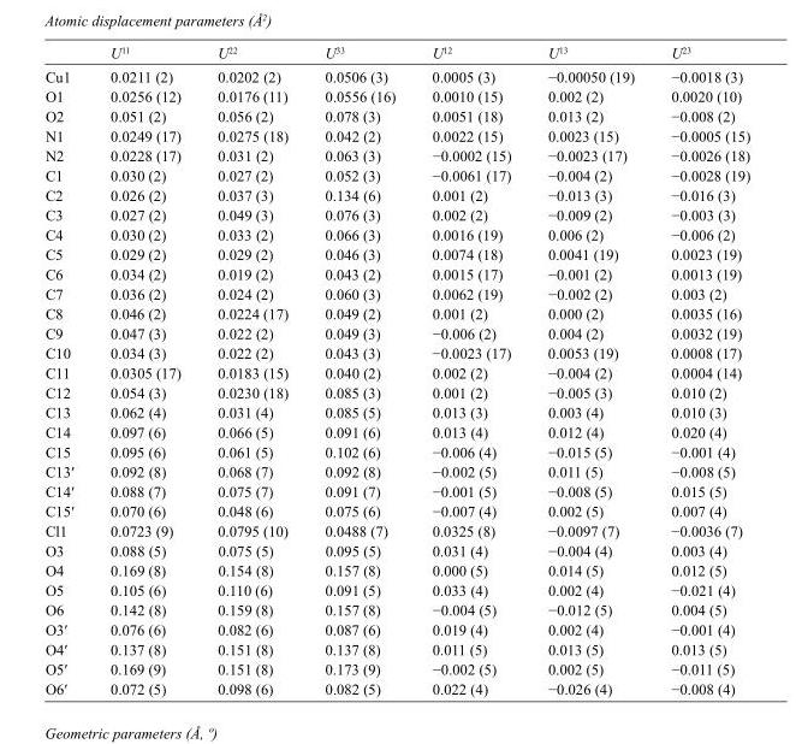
<table><thead><tr><td></td><td>U<sup>11</sup></td><td>U<sup>22</sup></td><td>U<sup>33</sup></td><td>U<sup>12</sup></td><td>U<sup>13</sup></td><td>U<sup>23</sup></td></tr></thead><tbody><tr><td>Cu1</td><td>0.0211 (2)</td><td>0.0202 (2)</td><td>0.0506 (3)</td><td>0.0005 (3)</td><td>−0.00050 (19)</td><td>−0.0018 (3)</td></tr><tr><td>O1</td><td>0.0256 (12)</td><td>0.0176 (11)</td><td>0.0556 (16)</td><td>0.0010 (15)</td><td>0.002 (2)</td><td>0.0020 (10)</td></tr><tr><td>O2</td><td>0.051 (2)</td><td>0.056 (2)</td><td>0.078 (3)</td><td>0.0051 (18)</td><td>0.013 (2)</td><td>−0.008 (2)</td></tr><tr><td>N1</td><td>0.0249 (17)</td><td>0.0275 (18)</td><td>0.042 (2)</td><td>0.0022 (15)</td><td>0.0023 (15)</td><td>−0.0005 (15)</td></tr><tr><td>N2</td><td>0.0228 (17)</td><td>0.031 (2)</td><td>0.063 (3)</td><td>−0.0002 (15)</td><td>−0.0023 (17)</td><td>−0.0026 (18)</td></tr><tr><td>C1</td><td>0.030 (2)</td><td>0.027 (2)</td><td>0.052 (3)</td><td>−0.0061 (17)</td><td>−0.004 (2)</td><td>−0.0028 (19)</td></tr><tr><td>C2</td><td>0.026 (2)</td><td>0.037 (3)</td><td>0.134 (6)</td><td>0.001 (2)</td><td>−0.013 (3)</td><td>−0.016 (3)</td></tr><tr><td>C3</td><td>0.027 (2)</td><td>0.049 (3)</td><td>0.076 (3)</td><td>0.002 (2)</td><td>−0.009 (2)</td><td>−0.003 (3)</td></tr><tr><td>C4</td><td>0.030 (2)</td><td>0.033 (2)</td><td>0.066 (3)</td><td>0.0016 (19)</td><td>0.006 (2)</td><td>−0.006 (2)</td></tr><tr><td>C5</td><td>0.029 (2)</td><td>0.029 (2)</td><td>0.046 (3)</td><td>0.0074 (18)</td><td>0.0041 (19)</td><td>0.0023 (19)</td></tr><tr><td>C6</td><td>0.034 (2)</td><td>0.019 (2)</td><td>0.043 (2)</td><td>0.0015 (17)</td><td>−0.001 (2)</td><td>0.0013 (19)</td></tr><tr><td>C7</td><td>0.036 (2)</td><td>0.024 (2)</td><td>0.060 (3)</td><td>0.0062 (19)</td><td>−0.002 (2)</td><td>0.003 (2)</td></tr><tr><td>C8</td><td>0.046 (2)</td><td>0.0224 (17)</td><td>0.049 (2)</td><td>0.001 (2)</td><td>0.000 (2)</td><td>0.0035 (16)</td></tr><tr><td>C9</td><td>0.047 (3)</td><td>0.022 (2)</td><td>0.049 (3)</td><td>−0.006 (2)</td><td>0.004 (2)</td><td>0.0032 (19)</td></tr><tr><td>C10</td><td>0.034 (3)</td><td>0.022 (2)</td><td>0.043 (3)</td><td>−0.0023 (17)</td><td>0.0053 (19)</td><td>0.0008 (17)</td></tr><tr><td>C11</td><td>0.0305 (17)</td><td>0.0183 (15)</td><td>0.040 (2)</td><td>0.002 (2)</td><td>−0.004 (2)</td><td>0.0004 (14)</td></tr><tr><td>C12</td><td>0.054 (3)</td><td>0.0230 (18)</td><td>0.085 (3)</td><td>0.001 (2)</td><td>−0.005 (3)</td><td>0.010 (2)</td></tr><tr><td>C13</td><td>0.062 (4)</td><td>0.031 (4)</td><td>0.085 (5)</td><td>0.013 (3)</td><td>0.003 (4)</td><td>0.010 (3)</td></tr><tr><td>C14</td><td>0.097 (6)</td><td>0.066 (5)</td><td>0.091 (6)</td><td>0.013 (4)</td><td>0.012 (4)</td><td>0.020 (4)</td></tr><tr><td>C15</td><td>0.095 (6)</td><td>0.061 (5)</td><td>0.102 (6)</td><td>−0.006 (4)</td><td>−0.015 (5)</td><td>−0.001 (4)</td></tr><tr><td>C13′</td><td>0.092 (8)</td><td>0.068 (7)</td><td>0.092 (8)</td><td>−0.002 (5)</td><td>0.011 (5)</td><td>−0.008 (5)</td></tr><tr><td>C14′</td><td>0.088 (7)</td><td>0.075 (7)</td><td>0.091 (7)</td><td>−0.001 (5)</td><td>−0.008 (5)</td><td>0.015 (5)</td></tr><tr><td>C15′</td><td>0.070 (6)</td><td>0.048 (6)</td><td>0.075 (6)</td><td>−0.007 (4)</td><td>0.002 (5)</td><td>0.007 (4)</td></tr><tr><td>Cl1</td><td>0.0723 (9)</td><td>0.0795 (10)</td><td>0.0488 (7)</td><td>0.0325 (8)</td><td>−0.0097 (7)</td><td>−0.0036 (7)</td></tr><tr><td>O3</td><td>0.088 (5)</td><td>0.075 (5)</td><td>0.095 (5)</td><td>0.031 (4)</td><td>−0.004 (4)</td><td>0.003 (4)</td></tr><tr><td>O4</td><td>0.169 (8)</td><td>0.154 (8)</td><td>0.157 (8)</td><td>0.000 (5)</td><td>0.014 (5)</td><td>0.012 (5)</td></tr><tr><td>O5</td><td>0.105 (6)</td><td>0.110 (6)</td><td>0.091 (5)</td><td>0.033 (4)</td><td>0.002 (4)</td><td>−0.021 (4)</td></tr><tr><td>O6</td><td>0.142 (8)</td><td>0.159 (8)</td><td>0.157 (8)</td><td>−0.004 (5)</td><td>−0.012 (5)</td><td>0.004 (5)</td></tr><tr><td>O3′</td><td>0.076 (6)</td><td>0.082 (6)</td><td>0.087 (6)</td><td>0.019 (4)</td><td>0.002 (4)</td><td>−0.001 (4)</td></tr><tr><td>O4′</td><td>0.137 (8)</td><td>0.151 (8)</td><td>0.137 (8)</td><td>0.011 (5)</td><td>0.013 (5)</td><td>0.013 (5)</td></tr><tr><td>O5′</td><td>0.169 (9)</td><td>0.151 (8)</td><td>0.173 (9)</td><td>−0.002 (5)</td><td>0.002 (5)</td><td>−0.011 (5)</td></tr><tr><td>O6′</td><td>0.072 (5)</td><td>0.098 (6)</td><td>0.082 (5)</td><td>0.022 (4)</td><td>−0.026 (4)</td><td>−0.008 (4)</td></tr></tbody></table>